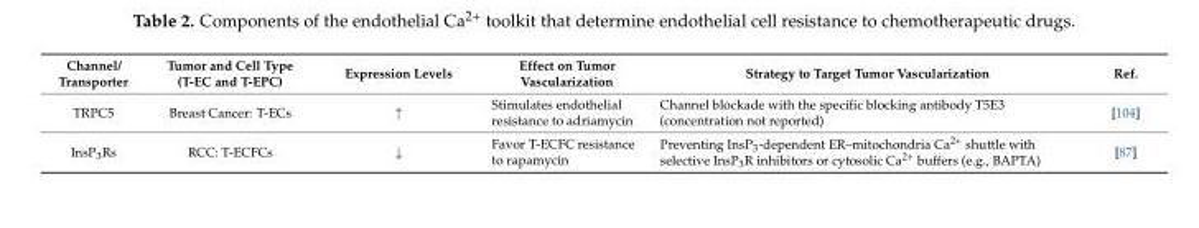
<table><thead><tr><td>Channel/ Transporter</td><td>Tumor and Cell Type (T-EC and T-EPC)</td><td>Expression Levels</td><td>Effect on Tumor Vascularization</td><td>Strategy to Target Tumor Vascularization</td><td>Ref.</td></tr></thead><tbody><tr><td>TRPC5</td><td>Breast Cancer: T-ECs</td><td>↑</td><td>Stimulates endothelial resistance to adriamycin</td><td>Channel blockade with the specific blocking antibody T5E3 (concentration not reported)</td><td>[104]</td></tr><tr><td>InsP<sub>3</sub>Rs</td><td>RCC: T-ECFCs</td><td>↓</td><td>Favor T-ECFC resistance to rapamycin</td><td>Preventing InsP<sub>3</sub>-dependent ER–mitochondria Ca<sup>2+</sup> shuttle with selective InsP<sub>3</sub>R inhibitors or cytosolic Ca<sup>2+</sup> buffers (e.g., BAPTA)</td><td>[87]</td></tr></tbody></table>